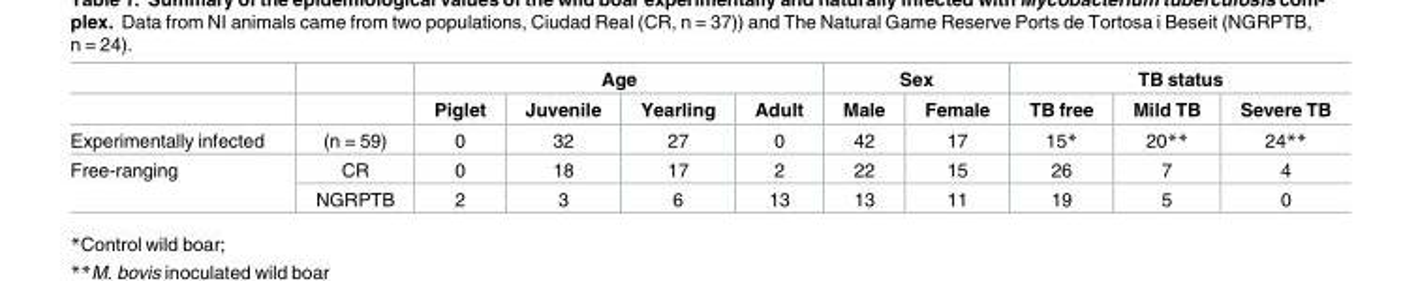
<table><thead><tr><td rowspan="2"></td><td rowspan="2"></td><td colspan="4">Age</td><td colspan="2">Sex</td><td colspan="3">TB status</td></tr><tr><td>Piglet</td><td>Juvenile</td><td>Yearling</td><td>Adult</td><td>Male</td><td>Female</td><td>TB free</td><td>Mild TB</td><td>Severe TB</td></tr></thead><tbody><tr><td>Experimentally infected</td><td>(n = 59)</td><td>0</td><td>32</td><td>27</td><td>0</td><td>42</td><td>17</td><td>15*</td><td>20**</td><td>24**</td></tr><tr><td rowspan="2">Free-ranging</td><td>CR</td><td>0</td><td>18</td><td>17</td><td>2</td><td>22</td><td>15</td><td>26</td><td>7</td><td>4</td></tr><tr><td>NGRPTB</td><td>2</td><td>3</td><td>6</td><td>13</td><td>13</td><td>11</td><td>19</td><td>5</td><td>0</td></tr></tbody></table>